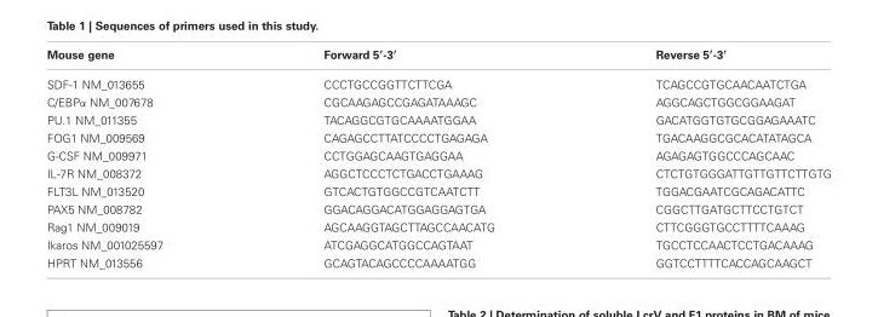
<table><thead><tr><td>Mouse gene</td><td>Forward 5′-3′</td><td>Reverse 5′-3′</td></tr></thead><tbody><tr><td>SDF-1 NM_013655</td><td>CCCTGCCGGTTCTTCGA</td><td>TCAGCCGTGCAACAATCTGA</td></tr><tr><td>C/EBPα NM_007678</td><td>CGCAAGAGCCGAGATAAAGC</td><td>AGGCAGCTGGCGGAAGAT</td></tr><tr><td>PU.1 NM_011355</td><td>TACAGGCGTGCAAAATGGAA</td><td>GACATGGTGTGCGGAGAAATC</td></tr><tr><td>FOG1 NM_009569</td><td>CAGAGCCTTATCCCCTGAGAGA</td><td>TGACAAGGCGCACATATAGCA</td></tr><tr><td>G-CSF NM_009971</td><td>CCTGGAGCAAGTGAGGAA</td><td>AGAGAGTGGCCCAGCAAC</td></tr><tr><td>IL-7R NM_008372</td><td>AGGCTCCCTCTGACCTGAAAG</td><td>CTCTGTGGGATTGTTGTTCTTGTG</td></tr><tr><td>FLT3L NM_013520</td><td>GTCACTGTGGCCGTCAATCTT</td><td>TGGACGAATCGCAGACATTC</td></tr><tr><td>PAX5 NM_008782</td><td>GGACAGGACATGGAGGAGTGA</td><td>CGGCTTGATGCTTCCTGTCT</td></tr><tr><td>Rag1 NM_009019</td><td>AGCAAGGTAGCTTAGCCAACATG</td><td>CTTCGGGTGCCTTTTCAAAG</td></tr><tr><td>Ikaros NM_001025597</td><td>ATCGAGGCATGGCCAGTAAT</td><td>TGCCTCCAACTCCTGACAAAG</td></tr><tr><td>HPRT NM_013556</td><td>GCAGTACAGCCCCAAAATGG</td><td>GGTCCTTTTCACCAGCAAGCT</td></tr></tbody></table>